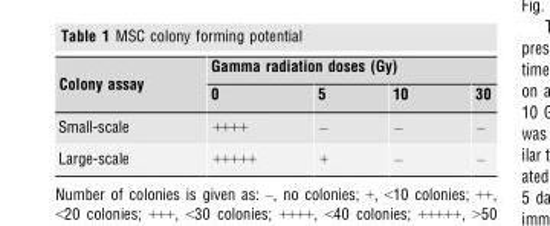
<table><thead><tr><td rowspan="2">Colony assay</td><td colspan="4">Gamma radiation doses (Gy)</td></tr><tr><td>0</td><td>5</td><td>10</td><td>30</td></tr></thead><tbody><tr><td>Small-scale</td><td>++++</td><td>–</td><td>–</td><td>–</td></tr><tr><td>Large-scale</td><td>+++++</td><td>+</td><td>–</td><td>–</td></tr></tbody></table>